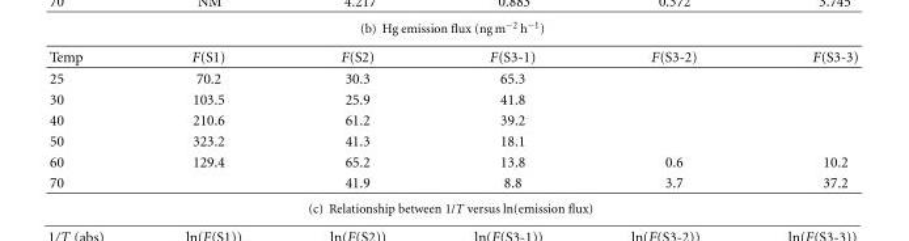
<table><thead><tr><td>Temp</td><td>F(S1)</td><td>F(S2)</td><td>F(S3-1)</td><td>F(S3-2)</td><td>F(S3-3)</td></tr></thead><tbody><tr><td>25</td><td>70.2</td><td>30.3</td><td>65.3</td><td></td><td></td></tr><tr><td>30</td><td>103.5</td><td>25.9</td><td>41.8</td><td></td><td></td></tr><tr><td>40</td><td>210.6</td><td>61.2</td><td>39.2</td><td></td><td></td></tr><tr><td>50</td><td>323.2</td><td>41.3</td><td>18.1</td><td></td><td></td></tr><tr><td>60</td><td>129.4</td><td>65.2</td><td>13.8</td><td>0.6</td><td>10.2</td></tr><tr><td>70</td><td></td><td>41.9</td><td>8.8</td><td>3.7</td><td>37.2</td></tr></tbody></table>